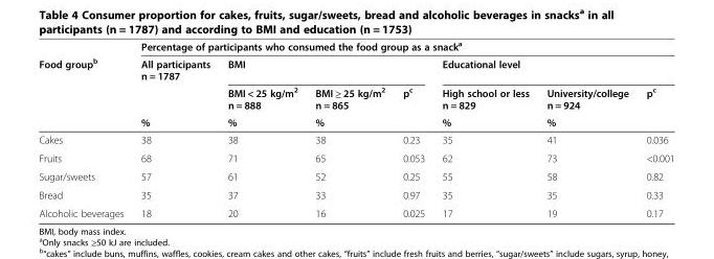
<table><thead><tr><td rowspan="4">Food group<sup>b</sup></td><td colspan="7">Percentage of participants who consumed the food group as a snack<sup>a</sup></td></tr><tr><td rowspan="3">All participants n = 1787 %</td><td colspan="3">BMI</td><td colspan="3">Educational level</td></tr><tr><td rowspan="2">BMI &lt; 25 kg/m<sup>2</sup> n = 888 %</td><td rowspan="2">BMI ≥ 25 kg/m<sup>2</sup> n = 865 %</td><td rowspan="2">p<sup>c</sup></td><td rowspan="2">High school or less n = 829 %</td><td rowspan="2">University/college n = 924 %</td><td rowspan="2">p<sup>c</sup></td></tr><tr></tr></thead><tbody><tr><td>Cakes</td><td>38</td><td>38</td><td>38</td><td>0.23</td><td>35</td><td>41</td><td>0.036</td></tr><tr><td>Fruits</td><td>68</td><td>71</td><td>65</td><td>0.053</td><td>62</td><td>73</td><td>&lt;0.001</td></tr><tr><td>Sugar/sweets</td><td>57</td><td>61</td><td>52</td><td>0.25</td><td>55</td><td>58</td><td>0.82</td></tr><tr><td>Bread</td><td>35</td><td>37</td><td>33</td><td>0.97</td><td>35</td><td>35</td><td>0.33</td></tr><tr><td>Alcoholic beverages</td><td>18</td><td>20</td><td>16</td><td>0.025</td><td>17</td><td>19</td><td>0.17</td></tr></tbody></table>